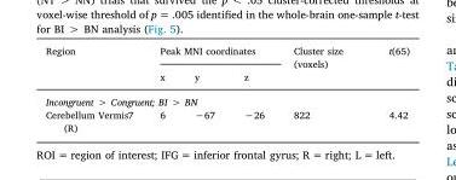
<table><thead><tr><td rowspan="2">Region</td><td colspan="3">Peak MNI coordinates</td><td rowspan="2">Cluster size (voxels)</td><td rowspan="2">t(65)</td></tr><tr><td>x</td><td>y</td><td>z</td></tr></thead><tbody><tr><td colspan="6">Incongruent &gt; Congruent; BI &gt; BN</td></tr><tr><td>Cerebellum Vermis7 (R)</td><td>6</td><td>−67</td><td>−26</td><td>822</td><td>4.42</td></tr></tbody></table>